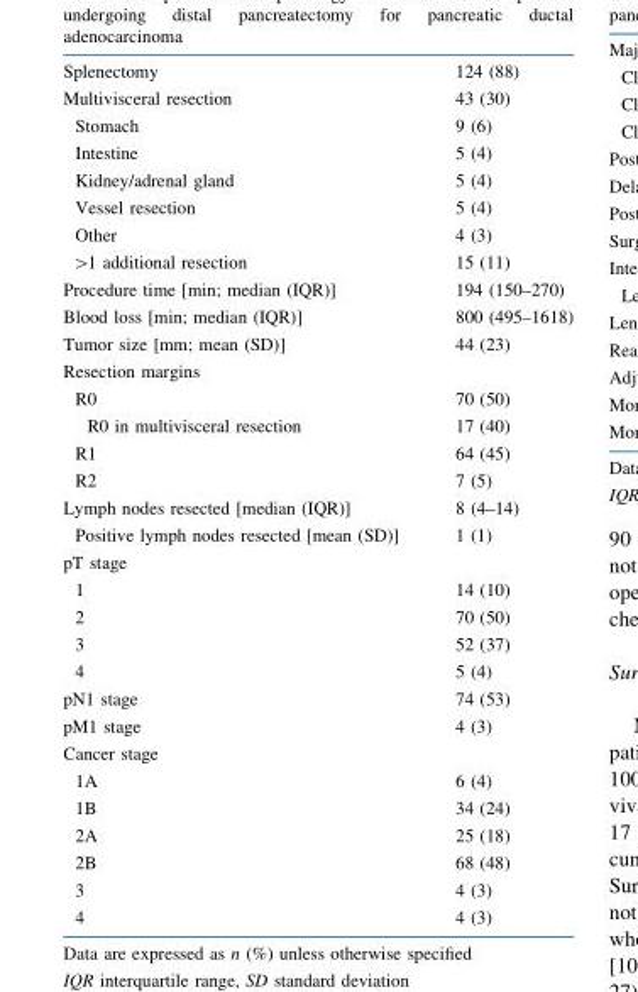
<table><tbody><tr><td>Splenectomy</td><td>124 (88)</td></tr><tr><td>Multivisceral resection</td><td>43 (30)</td></tr><tr><td>Stomach</td><td>9 (6)</td></tr><tr><td>Intestine</td><td>5 (4)</td></tr><tr><td>Kidney/adrenal gland</td><td>5 (4)</td></tr><tr><td>Vessel resection</td><td>5 (4)</td></tr><tr><td>Other</td><td>4 (3)</td></tr><tr><td>&gt;1 additional resection</td><td>15 (11)</td></tr><tr><td>Procedure time [min; median (IQR)]</td><td>194 (150–270)</td></tr><tr><td>Blood loss [min; median (IQR)]</td><td>800 (495–1618)</td></tr><tr><td>Tumor size [mm; mean (SD)]</td><td>44 (23)</td></tr><tr><td colspan="2">Resection margins</td></tr><tr><td>R0</td><td>70 (50)</td></tr><tr><td>R0 in multivisceral resection</td><td>17 (40)</td></tr><tr><td>R1</td><td>64 (45)</td></tr><tr><td>R2</td><td>7 (5)</td></tr><tr><td>Lymph nodes resected [median (IQR)]</td><td>8 (4–14)</td></tr><tr><td>Positive lymph nodes resected [mean (SD)]</td><td>1 (1)</td></tr><tr><td colspan="2">pT stage</td></tr><tr><td>1</td><td>14 (10)</td></tr><tr><td>2</td><td>70 (50)</td></tr><tr><td>3</td><td>52 (37)</td></tr><tr><td>4</td><td>5 (4)</td></tr><tr><td>pN1 stage</td><td>74 (53)</td></tr><tr><td>pM1 stage</td><td>4 (3)</td></tr><tr><td colspan="2">Cancer stage</td></tr><tr><td>1A</td><td>6 (4)</td></tr><tr><td>1B</td><td>34 (24)</td></tr><tr><td>2A</td><td>25 (18)</td></tr><tr><td>2B</td><td>68 (48)</td></tr><tr><td>3</td><td>4 (3)</td></tr><tr><td>4</td><td>4 (3)</td></tr></tbody></table>